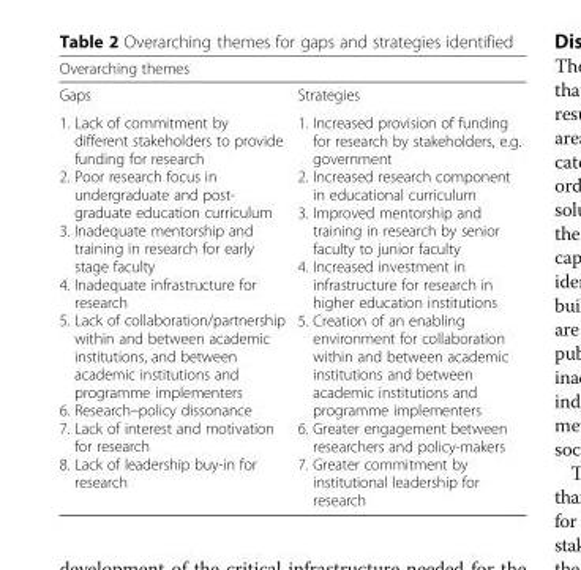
<table><thead><tr><td colspan="2">Overarching themes</td></tr><tr><td>Gaps</td><td>Strategies</td></tr></thead><tbody><tr><td>1. Lack of commitment by different stakeholders to provide funding for research 2. Poor research focus in undergraduate and post- graduate education curriculum 3. Inadequate mentorship and training in research for early stage faculty 4. Inadequate infrastructure for research 5. Lack of collaboration/partnership within and between academic institutions, and between academic institutions and programme implementers 6. Research–policy dissonance 7. Lack of interest and motivation for research 8. Lack of leadership buy-in for research</td><td>1. Increased provision of funding for research by stakeholders, e.g. government 2. Increased research component in educational curriculum 3. Improved mentorship and training in research by senior faculty to junior faculty 4. Increased investment in infrastructure for research in higher education institutions 5. Creation of an enabling environment for collaboration within and between academic institutions and between academic institutions and programme implementers 6. Greater engagement between researchers and policy-makers 7. Greater commitment by institutional leadership for research</td></tr></tbody></table>